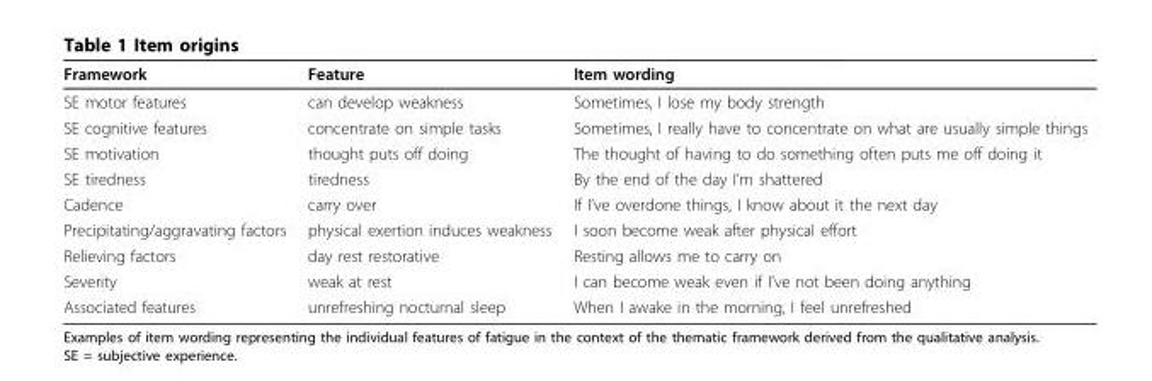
<table><thead><tr><td>Framework</td><td>Feature</td><td>Item wording</td></tr></thead><tbody><tr><td>SE motor features</td><td>can develop weakness</td><td>Sometimes, I lose my body strength</td></tr><tr><td>SE cognitive features</td><td>concentrate on simple tasks</td><td>Sometimes, I really have to concentrate on what are usually simple things</td></tr><tr><td>SE motivation</td><td>thought puts off doing</td><td>The thought of having to do something often puts me off doing it</td></tr><tr><td>SE tiredness</td><td>tiredness</td><td>By the end of the day I’m shattered</td></tr><tr><td>Cadence</td><td>carry over</td><td>If I’ve overdone things, I know about it the next day</td></tr><tr><td>Precipitating/aggravating factors</td><td>physical exertion induces weakness</td><td>I soon become weak after physical effort</td></tr><tr><td>Relieving factors</td><td>day rest restorative</td><td>Resting allows me to carry on</td></tr><tr><td>Severity</td><td>weak at rest</td><td>I can become weak even if I’ve not been doing anything</td></tr><tr><td>Associated features</td><td>unrefreshing nocturnal sleep</td><td>When I awake in the morning, I feel unrefreshed</td></tr></tbody></table>